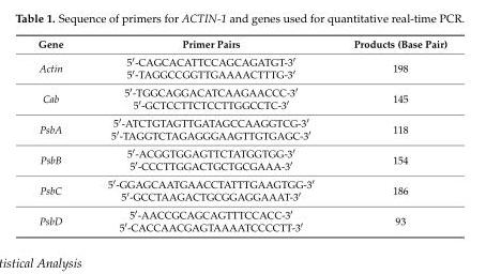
<table><thead><tr><td>Gene</td><td>Primer Pairs</td><td>Products (Base Pair)</td></tr></thead><tbody><tr><td>Actin</td><td>5′-CAGCACATTCCAGCAGATGT-3′ 5′-TAGGCCGGTTGAAAACTTTG-3′</td><td>198</td></tr><tr><td>Cab</td><td>5′-TGGCAGGACATCAAGAACCC-3′ 5′-GCTCCTTCTCCTTGGCCTC-3′</td><td>145</td></tr><tr><td>PsbA</td><td>5′-ATCTGTAGTTGATAGCCAAGGTCG-3′ 5′-TAGGTCTAGAGGGAAGTTGTGAGC-3′</td><td>118</td></tr><tr><td>PsbB</td><td>5′-ACGGTGGAGTTCTATGGTGG-3′ 5′-CCCTTGGACTGCTGCGAAA-3′</td><td>154</td></tr><tr><td>PsbC</td><td>5′-GGAGCAATGAACCTATTTGAAGTGG-3′ 5′-GCCTAAGACTGCGGAGGAAAT-3′</td><td>186</td></tr><tr><td>PsbD</td><td>5′-AACCGCAGCAGTTTCCACC-3′ 5′-CACCAACGAGTAAAATCCCCTT-3′</td><td>93</td></tr></tbody></table>